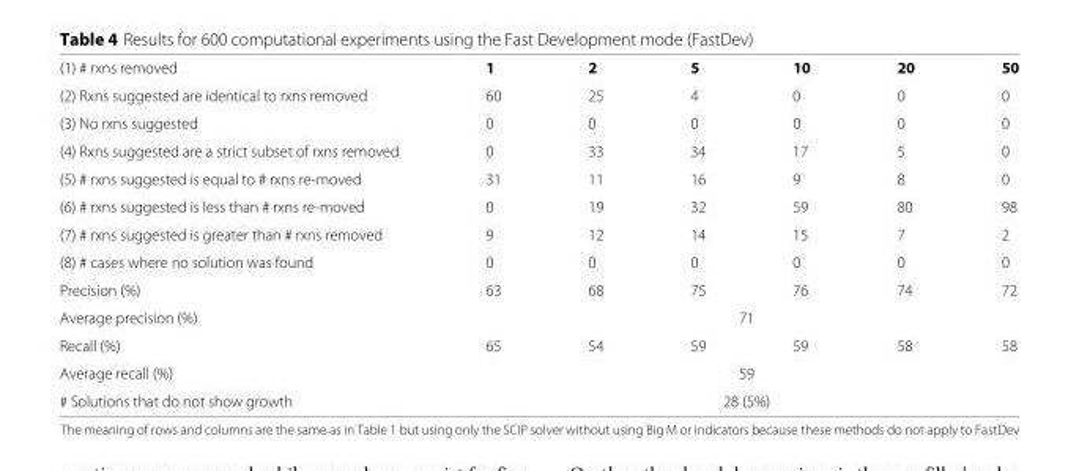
<table><tbody><tr><td>(1) # rxns removed</td><td>1</td><td>2</td><td>5</td><td>10</td><td>20</td><td>50</td></tr><tr><td>(2) Rxns suggested are identical to rxns removed</td><td>60</td><td>25</td><td>4</td><td>0</td><td>0</td><td>0</td></tr><tr><td>(3) No rxns suggested</td><td>0</td><td>0</td><td>0</td><td>0</td><td>0</td><td>0</td></tr><tr><td>(4) Rxns suggested are a strict subset of rxns removed</td><td>0</td><td>33</td><td>34</td><td>17</td><td>5</td><td>0</td></tr><tr><td>(5) # rxns suggested is equal to # rxns re-moved</td><td>31</td><td>11</td><td>16</td><td>9</td><td>8</td><td>0</td></tr><tr><td>(6) # rxns suggested is less than # rxns re-moved</td><td>0</td><td>19</td><td>32</td><td>59</td><td>80</td><td>98</td></tr><tr><td>(7) # rxns suggested is greater than # rxns removed</td><td>9</td><td>12</td><td>14</td><td>15</td><td>7</td><td>2</td></tr><tr><td>(8) # cases where no solution was found</td><td>0</td><td>0</td><td>0</td><td>0</td><td>0</td><td>0</td></tr><tr><td>Precision (%)</td><td>63</td><td>68</td><td>75</td><td>76</td><td>74</td><td>72</td></tr><tr><td>Average precision (%)</td><td colspan="6">71</td></tr><tr><td>Recall (%)</td><td>65</td><td>54</td><td>59</td><td>59</td><td>58</td><td>58</td></tr><tr><td>Average recall (%)</td><td colspan="6">59</td></tr><tr><td># Solutions that do not show growth</td><td colspan="6">28 (5%)</td></tr></tbody></table>